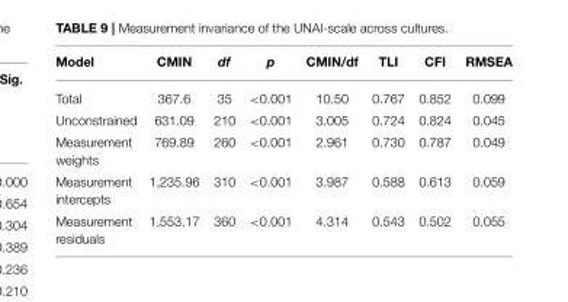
<table><thead><tr><td>Model</td><td>CMIN</td><td>df</td><td>p</td><td>CMIN/df</td><td>TLI</td><td>CFI</td><td>RMSEA</td></tr></thead><tbody><tr><td>Total</td><td>367.6</td><td>35</td><td>&lt;0.001</td><td>10.50</td><td>0.767</td><td>0.852</td><td>0.099</td></tr><tr><td>Unconstrained</td><td>631.09</td><td>210</td><td>&lt;0.001</td><td>3.005</td><td>0.724</td><td>0.824</td><td>0.045</td></tr><tr><td>Measurement weights</td><td>769.89</td><td>260</td><td>&lt;0.001</td><td>2.961</td><td>0.730</td><td>0.787</td><td>0.049</td></tr><tr><td>Measurement intercepts</td><td>1,235.96</td><td>310</td><td>&lt;0.001</td><td>3.987</td><td>0.588</td><td>0.613</td><td>0.059</td></tr><tr><td>Measurement residuals</td><td>1,553.17</td><td>360</td><td>&lt;0.001</td><td>4.314</td><td>0.543</td><td>0.502</td><td>0.055</td></tr></tbody></table>